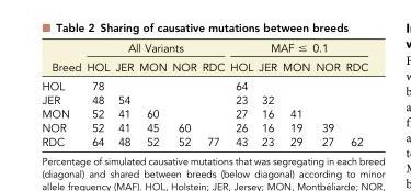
<table><thead><tr><td rowspan="2">Breed</td><td colspan="5">All Variants</td><td colspan="5">MAF ≤ 0.1</td></tr><tr><td>HOL</td><td>JER</td><td>MON</td><td>NOR</td><td>RDC</td><td>HOL</td><td>JER</td><td>MON</td><td>NOR</td><td>RDC</td></tr></thead><tbody><tr><td>HOL</td><td>78</td><td></td><td></td><td></td><td></td><td>64</td><td></td><td></td><td></td><td></td></tr><tr><td>JER</td><td>48</td><td>54</td><td></td><td></td><td></td><td>23</td><td>32</td><td></td><td></td><td></td></tr><tr><td>MON</td><td>52</td><td>41</td><td>60</td><td></td><td></td><td>27</td><td>16</td><td>41</td><td></td><td></td></tr><tr><td>NOR</td><td>52</td><td>41</td><td>45</td><td>60</td><td></td><td>26</td><td>16</td><td>19</td><td>39</td><td></td></tr><tr><td>RDC</td><td>64</td><td>48</td><td>52</td><td>52</td><td>77</td><td>43</td><td>23</td><td>29</td><td>27</td><td>62</td></tr></tbody></table>